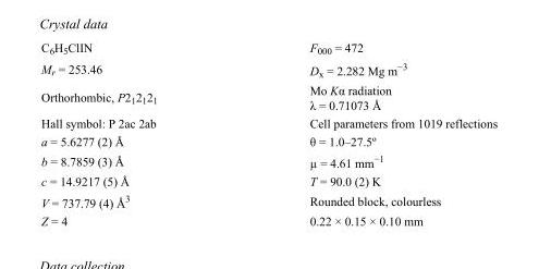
<table><tbody><tr><td>C<sub>6</sub>H<sub>5</sub>ClIN</td><td>F<sub>000</sub> = 472</td></tr><tr><td>M<sub>r</sub> = 253.46</td><td>D<sub>x</sub> = 2.282 Mg m<sup>−3</sup></td></tr><tr><td>Orthorhombic, P2<sub>1</sub>2<sub>1</sub>2<sub>1</sub></td><td>Mo Kα radiation λ = 0.71073 Å</td></tr><tr><td>Hall symbol: P 2ac 2ab</td><td>Cell parameters from 1019 reflections</td></tr><tr><td>a = 5.6277 (2) Å</td><td>θ = 1.0–27.5º</td></tr><tr><td>b = 8.7859 (3) Å</td><td>µ = 4.61 mm<sup>−1</sup></td></tr><tr><td>c = 14.9217 (5) Å</td><td>T = 90.0 (2) K</td></tr><tr><td>V = 737.79 (4) Å<sup>3</sup></td><td>Rounded block, colourless</td></tr><tr><td>Z = 4</td><td>0.22 × 0.15 × 0.10 mm</td></tr></tbody></table>